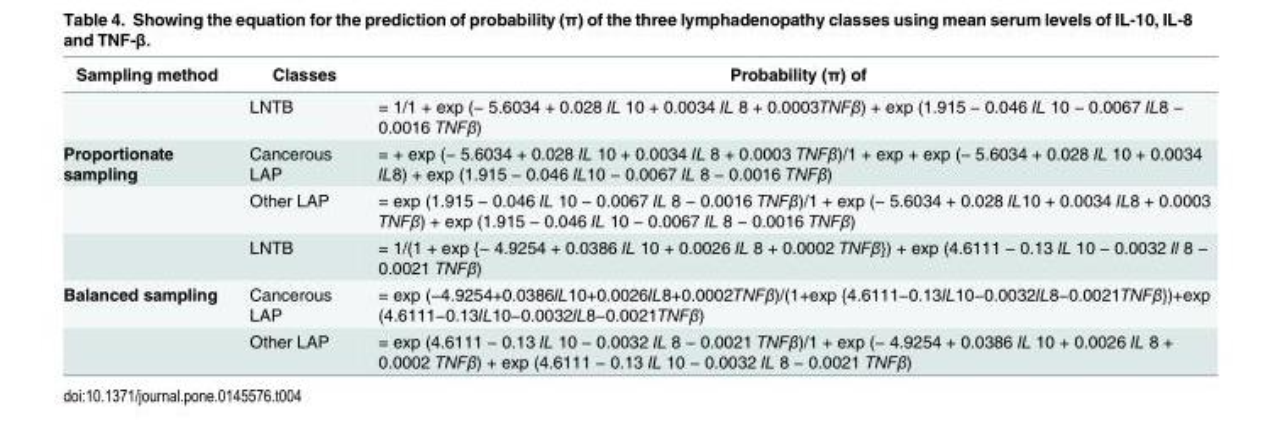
<table><thead><tr><td>Sampling method</td><td>Classes</td><td>Probability (π) of</td></tr></thead><tbody><tr><td></td><td>LNTB</td><td>= 1/1 + exp (− 5.6034 + 0.028 IL 10 + 0.0034 IL 8 + 0.0003TNFβ) + exp (1.915 − 0.046 IL 10 − 0.0067 IL8 − 0.0016 TNFβ)</td></tr><tr><td rowspan="3">Proportionate sampling</td><td>Cancerous LAP</td><td>= + exp (− 5.6034 + 0.028 IL 10 + 0.0034 IL 8 + 0.0003 TNFβ)/1 + exp + exp (− 5.6034 + 0.028 IL 10 + 0.0034 IL8) + exp (1.915 − 0.046 IL10 − 0.0067 IL 8 − 0.0016 TNFβ)</td></tr><tr><td>Other LAP</td><td>= exp (1.915 − 0.046 IL 10 − 0.0067 IL 8 − 0.0016 TNFβ)/1 + exp (− 5.6034 + 0.028 IL10 + 0.0034 IL8 + 0.0003 TNFβ) + exp (1.915 − 0.046 IL 10 − 0.0067 IL 8 − 0.0016 TNFβ)</td></tr><tr><td>LNTB</td><td>= 1/(1 + exp {− 4.9254 + 0.0386 IL 10 + 0.0026 IL 8 + 0.0002 TNFβ}) + exp (4.6111 − 0.13 IL 10 − 0.0032 Il 8 − 0.0021 TNFβ)</td></tr><tr><td rowspan="2">Balanced sampling</td><td>Cancerous LAP</td><td>= exp (−4.9254+0.0386IL10+0.0026IL8+0.0002TNFβ)/(1+exp {4.6111−0.13IL10−0.0032IL8−0.0021TNFβ})+exp (4.6111−0.13IL10−0.0032IL8−0.0021TNFβ)</td></tr><tr><td>Other LAP</td><td>= exp (4.6111 − 0.13 IL 10 − 0.0032 IL 8 − 0.0021 TNFβ)/1 + exp (− 4.9254 + 0.0386 IL 10 + 0.0026 IL 8 + 0.0002 TNFβ) + exp (4.6111 − 0.13 IL 10 − 0.0032 IL 8 − 0.0021 TNFβ)</td></tr></tbody></table>